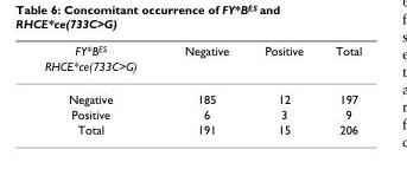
<table><thead><tr><td rowspan="2">FY*B<sup>ES</sup> RHCE*ce(733C&gt;G)</td><td rowspan="2">Negative</td><td rowspan="2">Positive</td><td rowspan="2">Total</td></tr><tr></tr></thead><tbody><tr><td>Negative</td><td>185</td><td>12</td><td>197</td></tr><tr><td>Positive</td><td>6</td><td>3</td><td>9</td></tr><tr><td>Total</td><td>191</td><td>15</td><td>206</td></tr></tbody></table>